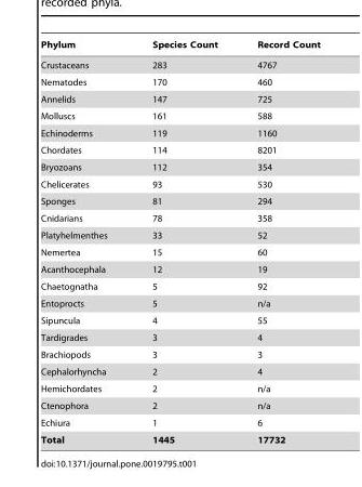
<table><thead><tr><td>Phylum</td><td>Species Count</td><td>Record Count</td></tr></thead><tbody><tr><td>Crustaceans</td><td>283</td><td>4767</td></tr><tr><td>Nematodes</td><td>170</td><td>460</td></tr><tr><td>Annelids</td><td>147</td><td>725</td></tr><tr><td>Molluscs</td><td>161</td><td>588</td></tr><tr><td>Echinoderms</td><td>119</td><td>1160</td></tr><tr><td>Chordates</td><td>114</td><td>8201</td></tr><tr><td>Bryozoans</td><td>112</td><td>354</td></tr><tr><td>Chelicerates</td><td>93</td><td>530</td></tr><tr><td>Sponges</td><td>81</td><td>294</td></tr><tr><td>Cnidarians</td><td>78</td><td>358</td></tr><tr><td>Platyhelmenthes</td><td>33</td><td>52</td></tr><tr><td>Nemertea</td><td>15</td><td>60</td></tr><tr><td>Acanthocephala</td><td>12</td><td>19</td></tr><tr><td>Chaetognatha</td><td>5</td><td>92</td></tr><tr><td>Entoprocts</td><td>5</td><td>n/a</td></tr><tr><td>Sipuncula</td><td>4</td><td>55</td></tr><tr><td>Tardigrades</td><td>3</td><td>4</td></tr><tr><td>Brachiopods</td><td>3</td><td>3</td></tr><tr><td>Cephalorhyncha</td><td>2</td><td>4</td></tr><tr><td>Hemichordates</td><td>2</td><td>n/a</td></tr><tr><td>Ctenophora</td><td>2</td><td>n/a</td></tr><tr><td>Echiura</td><td>1</td><td>6</td></tr><tr><td>Total</td><td>1445</td><td>17732</td></tr></tbody></table>